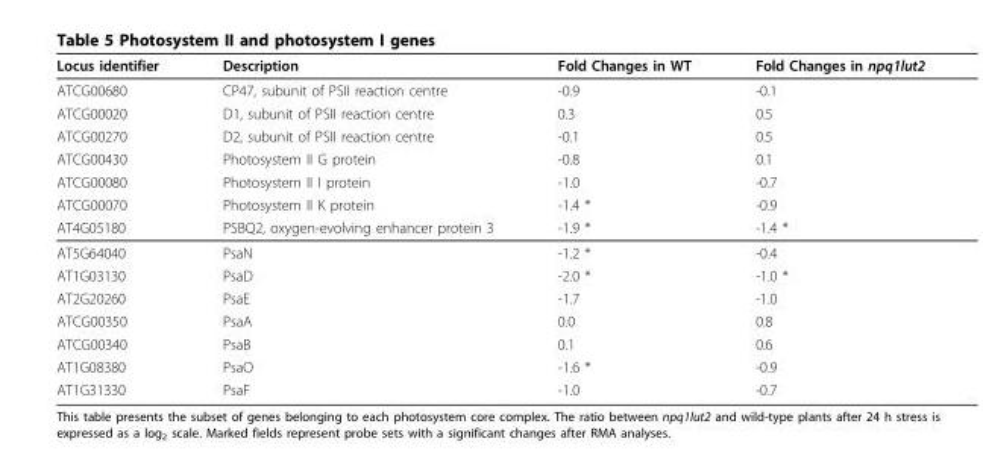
<table><thead><tr><td>Locus identifier</td><td>Description</td><td>Fold Changes in WT</td><td>Fold Changes in npq1lut2</td></tr></thead><tbody><tr><td>ATCG00680</td><td>CP47, subunit of PSII reaction centre</td><td>-0.9</td><td>-0.1</td></tr><tr><td>ATCG00020</td><td>D1, subunit of PSII reaction centre</td><td>0.3</td><td>0.5</td></tr><tr><td>ATCG00270</td><td>D2, subunit of PSII reaction centre</td><td>-0.1</td><td>0.5</td></tr><tr><td>ATCG00430</td><td>Photosystem II G protein</td><td>-0.8</td><td>0.1</td></tr><tr><td>ATCG00080</td><td>Photosystem II I protein</td><td>-1.0</td><td>-0.7</td></tr><tr><td>ATCG00070</td><td>Photosystem II K protein</td><td>-1.4 *</td><td>-0.9</td></tr><tr><td>AT4G05180</td><td>PSBQ2, oxygen-evolving enhancer protein 3</td><td>-1.9 *</td><td>-1.4 *</td></tr><tr><td>AT5G64040</td><td>PsaN</td><td>-1.2 *</td><td>-0.4</td></tr><tr><td>AT1G03130</td><td>PsaD</td><td>-2.0 *</td><td>-1.0 *</td></tr><tr><td>AT2G20260</td><td>PsaE</td><td>-1.7</td><td>-1.0</td></tr><tr><td>ATCG00350</td><td>PsaA</td><td>0.0</td><td>0.8</td></tr><tr><td>ATCG00340</td><td>PsaB</td><td>0.1</td><td>0.6</td></tr><tr><td>AT1G08380</td><td>PsaO</td><td>-1.6 *</td><td>-0.9</td></tr><tr><td>AT1G31330</td><td>PsaF</td><td>-1.0</td><td>-0.7</td></tr></tbody></table>